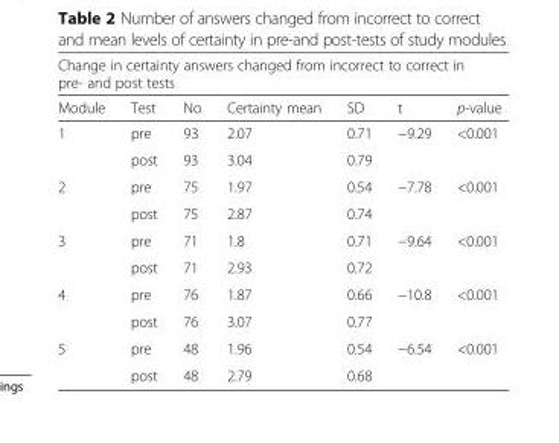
<table><thead><tr><td colspan="7">Change in certainty answers changed from incorrect to correct in pre- and post tests</td></tr><tr><td>Module</td><td>Test</td><td>No</td><td>Certainty mean</td><td>SD</td><td>t</td><td>p-value</td></tr></thead><tbody><tr><td rowspan="2">1</td><td>pre</td><td>93</td><td>2.07</td><td>0.71</td><td rowspan="2">−9.29</td><td rowspan="2">&lt;0.001</td></tr><tr><td>post</td><td>93</td><td>3.04</td><td>0.79</td></tr><tr><td rowspan="2">2</td><td>pre</td><td>75</td><td>1.97</td><td>0.54</td><td rowspan="2">−7.78</td><td rowspan="2">&lt;0.001</td></tr><tr><td>post</td><td>75</td><td>2.87</td><td>0.74</td></tr><tr><td rowspan="2">3</td><td>pre</td><td>71</td><td>1.8</td><td>0.71</td><td rowspan="2">−9.64</td><td rowspan="2">&lt;0.001</td></tr><tr><td>post</td><td>71</td><td>2.93</td><td>0.72</td></tr><tr><td rowspan="2">4</td><td>pre</td><td>76</td><td>1.87</td><td>0.66</td><td rowspan="2">−10.8</td><td rowspan="2">&lt;0.001</td></tr><tr><td>post</td><td>76</td><td>3.07</td><td>0.77</td></tr><tr><td rowspan="2">5</td><td>pre</td><td>48</td><td>1.96</td><td>0.54</td><td rowspan="2">−6.54</td><td rowspan="2">&lt;0.001</td></tr><tr><td>post</td><td>48</td><td>2.79</td><td>0.68</td></tr></tbody></table>